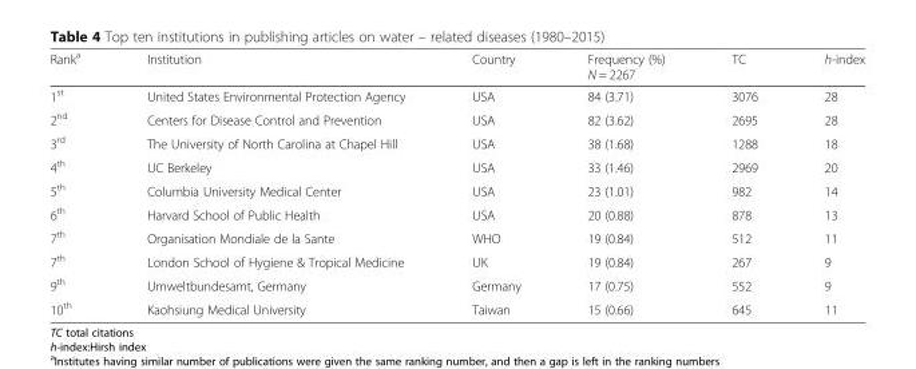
<table><thead><tr><td>Rank<sup>a</sup></td><td>Institution</td><td>Country</td><td>Frequency (%) N = 2267</td><td>TC</td><td>h-index</td></tr></thead><tbody><tr><td>1<sup>st</sup></td><td>United States Environmental Protection Agency</td><td>USA</td><td>84 (3.71)</td><td>3076</td><td>28</td></tr><tr><td>2<sup>nd</sup></td><td>Centers for Disease Control and Prevention</td><td>USA</td><td>82 (3.62)</td><td>2695</td><td>28</td></tr><tr><td>3<sup>rd</sup></td><td>The University of North Carolina at Chapel Hill</td><td>USA</td><td>38 (1.68)</td><td>1288</td><td>18</td></tr><tr><td>4<sup>th</sup></td><td>UC Berkeley</td><td>USA</td><td>33 (1.46)</td><td>2969</td><td>20</td></tr><tr><td>5<sup>th</sup></td><td>Columbia University Medical Center</td><td>USA</td><td>23 (1.01)</td><td>982</td><td>14</td></tr><tr><td>6<sup>th</sup></td><td>Harvard School of Public Health</td><td>USA</td><td>20 (0.88)</td><td>878</td><td>13</td></tr><tr><td>7<sup>th</sup></td><td>Organisation Mondiale de la Sante</td><td>WHO</td><td>19 (0.84)</td><td>512</td><td>11</td></tr><tr><td>7<sup>th</sup></td><td>London School of Hygiene &amp; Tropical Medicine</td><td>UK</td><td>19 (0.84)</td><td>267</td><td>9</td></tr><tr><td>9<sup>th</sup></td><td>Umweltbundesamt, Germany</td><td>Germany</td><td>17 (0.75)</td><td>552</td><td>9</td></tr><tr><td>10<sup>th</sup></td><td>Kaohsiung Medical University</td><td>Taiwan</td><td>15 (0.66)</td><td>645</td><td>11</td></tr></tbody></table>